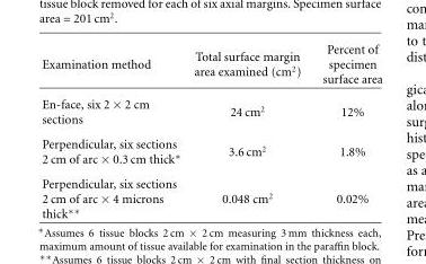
<table><thead><tr><td>Examination method</td><td>Total surface margin area examined (cm<sup>2</sup>)</td><td>Percent of specimen surface area</td></tr></thead><tbody><tr><td>En-face, six 2 × 2 cm sections</td><td>24 cm<sup>2</sup></td><td>12%</td></tr><tr><td>Perpendicular, six sections 2 cm of arc × 0.3 cm thick∗</td><td>3.6 cm<sup>2</sup></td><td>1.8%</td></tr><tr><td>Perpendicular, six sections 2 cm of arc × 4 microns thick∗∗</td><td>0.048 cm<sup>2</sup></td><td>0.02%</td></tr></tbody></table>